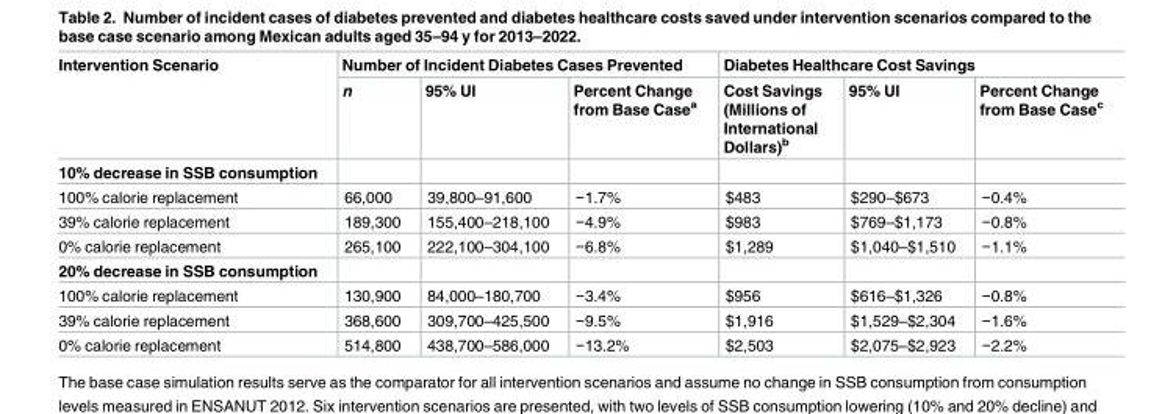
<table><thead><tr><td rowspan="2">Intervention Scenario</td><td colspan="3">Number of Incident Diabetes Cases Prevented</td><td colspan="3">Diabetes Healthcare Cost Savings</td></tr><tr><td>n</td><td>95% UI</td><td>Percent Change from Base Case<sup>a</sup></td><td>Cost Savings (Millions of International Dollars)<sup>b</sup></td><td>95% UI</td><td>Percent Change from Base Case<sup>c</sup></td></tr></thead><tbody><tr><td colspan="7">10% decrease in SSB consumption</td></tr><tr><td>100% calorie replacement</td><td>66,000</td><td>39,800–91,600</td><td>−1.7%</td><td>$483</td><td>$290–$673</td><td>−0.4%</td></tr><tr><td>39% calorie replacement</td><td>189,300</td><td>155,400–218,100</td><td>−4.9%</td><td>$983</td><td>$769–$1,173</td><td>−0.8%</td></tr><tr><td>0% calorie replacement</td><td>265,100</td><td>222,100–304,100</td><td>−6.8%</td><td>$1,289</td><td>$1,040–$1,510</td><td>−1.1%</td></tr><tr><td colspan="7">20% decrease in SSB consumption</td></tr><tr><td>100% calorie replacement</td><td>130,900</td><td>84,000–180,700</td><td>−3.4%</td><td>$956</td><td>$616–$1,326</td><td>−0.8%</td></tr><tr><td>39% calorie replacement</td><td>368,600</td><td>309,700–425,500</td><td>−9.5%</td><td>$1,916</td><td>$1,529–$2,304</td><td>−1.6%</td></tr><tr><td>0% calorie replacement</td><td>514,800</td><td>438,700–586,000</td><td>−13.2%</td><td>$2,503</td><td>$2,075–$2,923</td><td>−2.2%</td></tr></tbody></table>